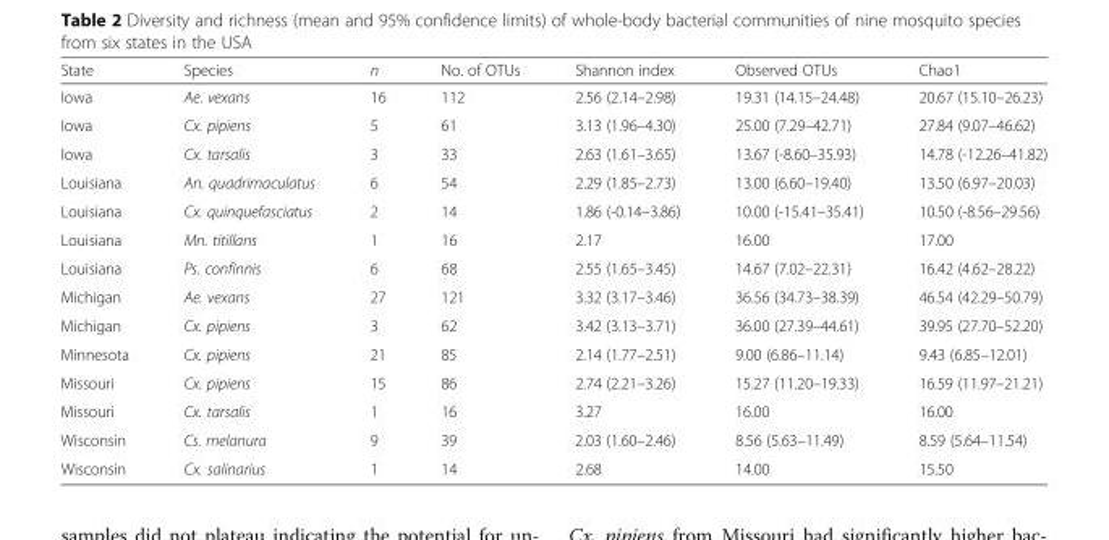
<table><thead><tr><td>State</td><td>Species</td><td>n</td><td>No. of OTUs</td><td>Shannon index</td><td>Observed OTUs</td><td>Chao1</td></tr></thead><tbody><tr><td>Iowa</td><td>Ae. vexans</td><td>16</td><td>112</td><td>2.56 (2.14–2.98)</td><td>19.31 (14.15–24.48)</td><td>20.67 (15.10–26.23)</td></tr><tr><td>Iowa</td><td>Cx. pipiens</td><td>5</td><td>61</td><td>3.13 (1.96–4.30)</td><td>25.00 (7.29–42.71)</td><td>27.84 (9.07–46.62)</td></tr><tr><td>Iowa</td><td>Cx. tarsalis</td><td>3</td><td>33</td><td>2.63 (1.61–3.65)</td><td>13.67 (-8.60–35.93)</td><td>14.78 (-12.26–41.82)</td></tr><tr><td>Louisiana</td><td>An. quadrimaculatus</td><td>6</td><td>54</td><td>2.29 (1.85–2.73)</td><td>13.00 (6.60–19.40)</td><td>13.50 (6.97–20.03)</td></tr><tr><td>Louisiana</td><td>Cx. quinquefasciatus</td><td>2</td><td>14</td><td>1.86 (-0.14–3.86)</td><td>10.00 (-15.41–35.41)</td><td>10.50 (-8.56–29.56)</td></tr><tr><td>Louisiana</td><td>Mn. titillans</td><td>1</td><td>16</td><td>2.17</td><td>16.00</td><td>17.00</td></tr><tr><td>Louisiana</td><td>Ps. confinnis</td><td>6</td><td>68</td><td>2.55 (1.65–3.45)</td><td>14.67 (7.02–22.31)</td><td>16.42 (4.62–28.22)</td></tr><tr><td>Michigan</td><td>Ae. vexans</td><td>27</td><td>121</td><td>3.32 (3.17–3.46)</td><td>36.56 (34.73–38.39)</td><td>46.54 (42.29–50.79)</td></tr><tr><td>Michigan</td><td>Cx. pipiens</td><td>3</td><td>62</td><td>3.42 (3.13–3.71)</td><td>36.00 (27.39–44.61)</td><td>39.95 (27.70–52.20)</td></tr><tr><td>Minnesota</td><td>Cx. pipiens</td><td>21</td><td>85</td><td>2.14 (1.77–2.51)</td><td>9.00 (6.86–11.14)</td><td>9.43 (6.85–12.01)</td></tr><tr><td>Missouri</td><td>Cx. pipiens</td><td>15</td><td>86</td><td>2.74 (2.21–3.26)</td><td>15.27 (11.20–19.33)</td><td>16.59 (11.97–21.21)</td></tr><tr><td>Missouri</td><td>Cx. tarsalis</td><td>1</td><td>16</td><td>3.27</td><td>16.00</td><td>16.00</td></tr><tr><td>Wisconsin</td><td>Cs. melanura</td><td>9</td><td>39</td><td>2.03 (1.60–2.46)</td><td>8.56 (5.63–11.49)</td><td>8.59 (5.64–11.54)</td></tr><tr><td>Wisconsin</td><td>Cx. salinarius</td><td>1</td><td>14</td><td>2.68</td><td>14.00</td><td>15.50</td></tr></tbody></table>